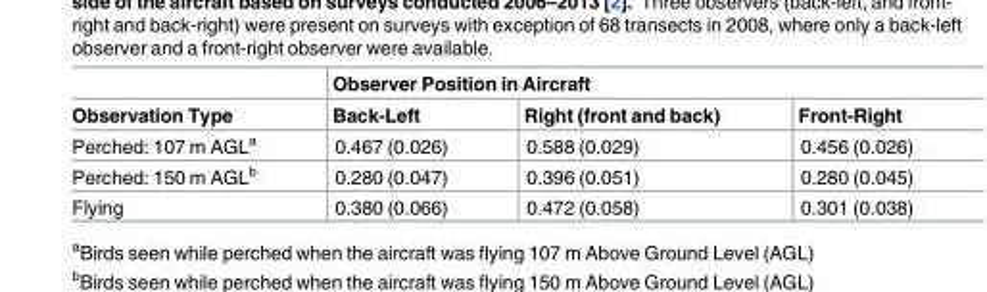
<table><thead><tr><td rowspan="2">Observation Type</td><td colspan="3">Observer Position in Aircraft</td></tr><tr><td>Back-Left</td><td>Right (front and back)</td><td>Front-Right</td></tr></thead><tbody><tr><td>Perched: 107 m AGL<sup>a</sup></td><td>0.467 (0.026)</td><td>0.588 (0.029)</td><td>0.456 (0.026)</td></tr><tr><td>Perched: 150 m AGL<sup>b</sup></td><td>0.280 (0.047)</td><td>0.396 (0.051)</td><td>0.280 (0.045)</td></tr><tr><td>Flying</td><td>0.380 (0.066)</td><td>0.472 (0.058)</td><td>0.301 (0.038)</td></tr></tbody></table>